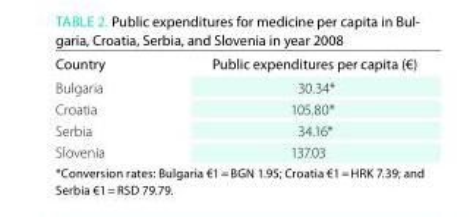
<table><thead><tr><td>Country</td><td>Public expenditures per capita (€)</td></tr></thead><tbody><tr><td>Bulgaria</td><td>30.34*</td></tr><tr><td>Croatia</td><td>105.80*</td></tr><tr><td>Serbia</td><td>34.16*</td></tr><tr><td>Slovenia</td><td>137.03</td></tr></tbody></table>